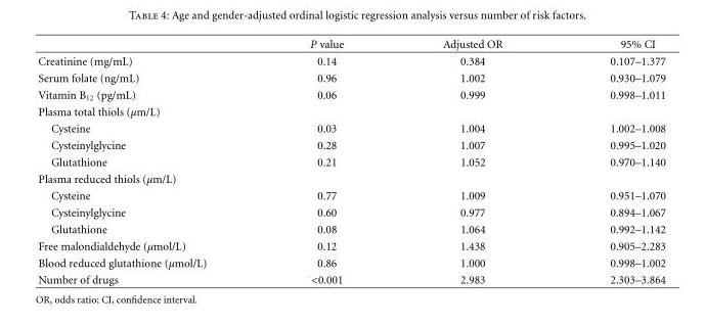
<table><thead><tr><td></td><td>P value</td><td>Adjusted OR</td><td>95% CI</td></tr></thead><tbody><tr><td>Creatinine (mg/mL)</td><td>0.14</td><td>0.384</td><td>0.107–1.377</td></tr><tr><td>Serum folate (ng/mL)</td><td>0.96</td><td>1.002</td><td>0.930–1.079</td></tr><tr><td>Vitamin B<sub>12</sub> (pg/mL)</td><td>0.06</td><td>0.999</td><td>0.998–1.011</td></tr><tr><td colspan="4">Plasma total thiols (μm/L)</td></tr><tr><td>Cysteine</td><td>0.03</td><td>1.004</td><td>1.002–1.008</td></tr><tr><td>Cysteinylglycine</td><td>0.28</td><td>1.007</td><td>0.995–1.020</td></tr><tr><td>Glutathione</td><td>0.21</td><td>1.052</td><td>0.970–1.140</td></tr><tr><td colspan="4">Plasma reduced thiols (μm/L)</td></tr><tr><td>Cysteine</td><td>0.77</td><td>1.009</td><td>0.951–1.070</td></tr><tr><td>Cysteinylglycine</td><td>0.60</td><td>0.977</td><td>0.894–1.067</td></tr><tr><td>Glutathione</td><td>0.08</td><td>1.064</td><td>0.992–1.142</td></tr><tr><td>Free malondialdehyde (μmol/L)</td><td>0.12</td><td>1.438</td><td>0.905–2.283</td></tr><tr><td>Blood reduced glutathione (μmol/L)</td><td>0.86</td><td>1.000</td><td>0.998–1.002</td></tr><tr><td>Number of drugs</td><td>&lt;0.001</td><td>2.983</td><td>2.303–3.864</td></tr></tbody></table>